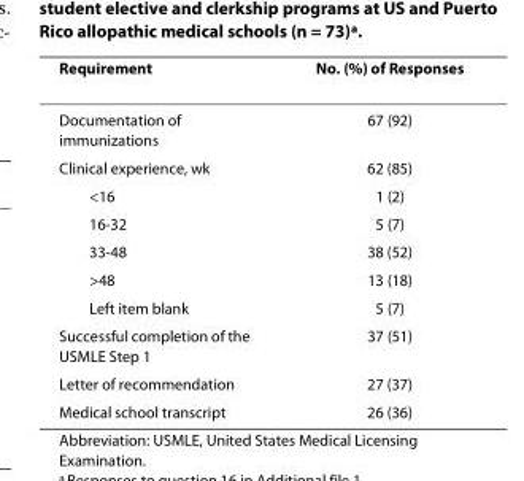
<table><thead><tr><td>Requirement</td><td>No. (%) of Responses</td></tr></thead><tbody><tr><td>Documentation of immunizations</td><td>67 (92)</td></tr><tr><td>Clinical experience, wk</td><td>62 (85)</td></tr><tr><td>&lt;16</td><td>1 (2)</td></tr><tr><td>16-32</td><td>5 (7)</td></tr><tr><td>33-48</td><td>38 (52)</td></tr><tr><td>&gt;48</td><td>13 (18)</td></tr><tr><td>Left item blank</td><td>5 (7)</td></tr><tr><td>Successful completion of the USMLE Step 1</td><td>37 (51)</td></tr><tr><td>Letter of recommendation</td><td>27 (37)</td></tr><tr><td>Medical school transcript</td><td>26 (36)</td></tr></tbody></table>